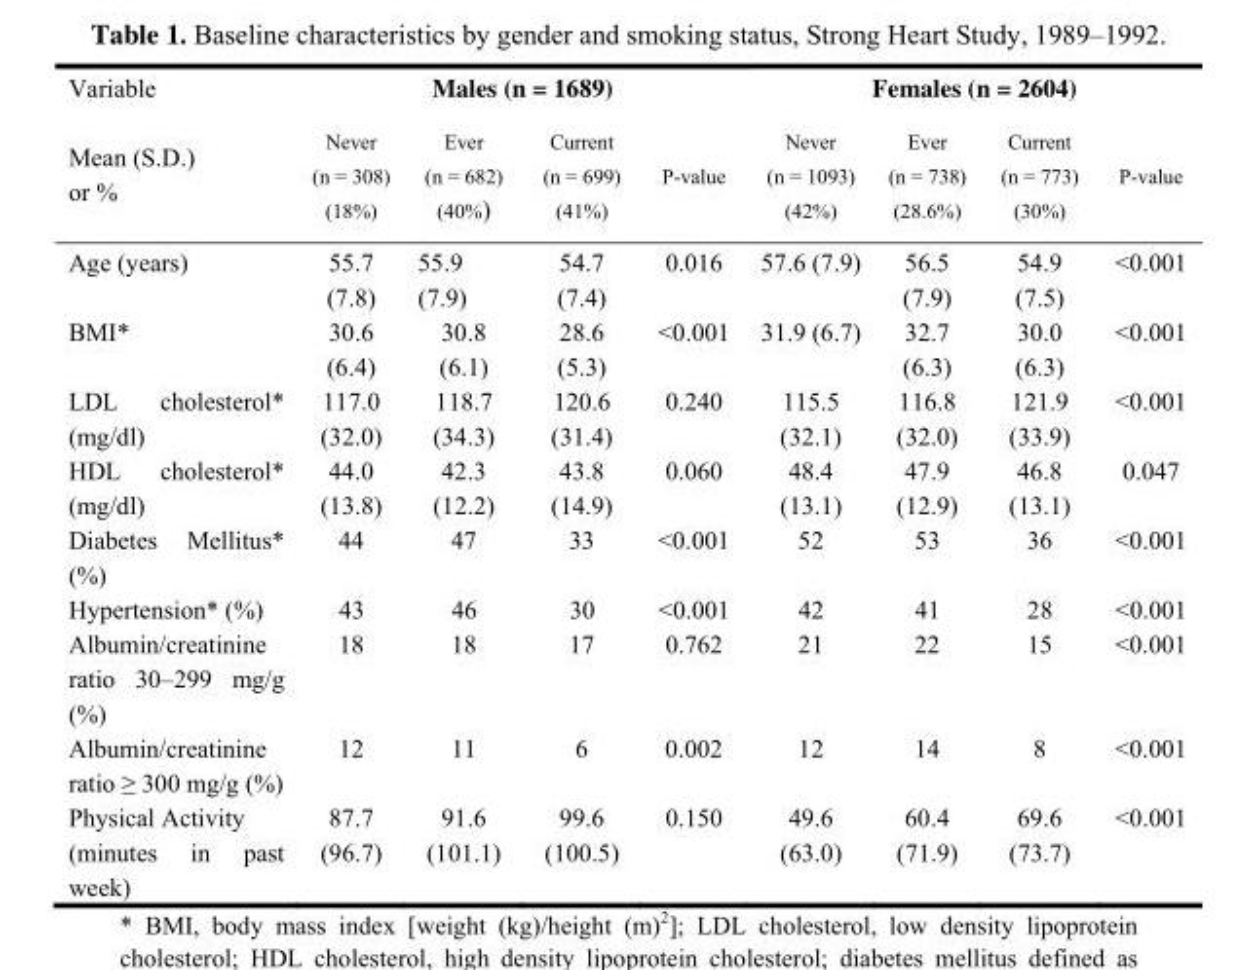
<table><thead><tr><td rowspan="2">Variable Mean (S.D.) or %</td><td colspan="4">Males (n = 1689)</td><td colspan="4">Females (n = 2604)</td></tr><tr><td>Never (n = 308) (18%)</td><td>Ever (n = 682) (40%)</td><td>Current (n = 699) (41%)</td><td>P-value</td><td>Never (n = 1093) (42%)</td><td>Ever (n = 738) (28.6%)</td><td>Current (n = 773) (30%)</td><td>P-value</td></tr></thead><tbody><tr><td>Age (years)</td><td>55.7 (7.8)</td><td>55.9 (7.9)</td><td>54.7 (7.4)</td><td>0.016</td><td>57.6 (7.9)</td><td>56.5 (7.9)</td><td>54.9 (7.5)</td><td>&lt;0.001</td></tr><tr><td>BMI*</td><td>30.6 (6.4)</td><td>30.8 (6.1)</td><td>28.6 (5.3)</td><td>&lt;0.001</td><td>31.9 (6.7)</td><td>32.7 (6.3)</td><td>30.0 (6.3)</td><td>&lt;0.001</td></tr><tr><td>LDL cholesterol* (mg/dl)</td><td>117.0 (32.0)</td><td>118.7 (34.3)</td><td>120.6 (31.4)</td><td>0.240</td><td>115.5 (32.1)</td><td>116.8 (32.0)</td><td>121.9 (33.9)</td><td>&lt;0.001</td></tr><tr><td>HDL cholesterol* (mg/dl)</td><td>44.0 (13.8)</td><td>42.3 (12.2)</td><td>43.8 (14.9)</td><td>0.060</td><td>48.4 (13.1)</td><td>47.9 (12.9)</td><td>46.8 (13.1)</td><td>0.047</td></tr><tr><td>Diabetes Mellitus* (%)</td><td>44</td><td>47</td><td>33</td><td>&lt;0.001</td><td>52</td><td>53</td><td>36</td><td>&lt;0.001</td></tr><tr><td>Hypertension* (%)</td><td>43</td><td>46</td><td>30</td><td>&lt;0.001</td><td>42</td><td>41</td><td>28</td><td>&lt;0.001</td></tr><tr><td>Albumin/creatinine ratio 30–299 mg/g (%)</td><td>18</td><td>18</td><td>17</td><td>0.762</td><td>21</td><td>22</td><td>15</td><td>&lt;0.001</td></tr><tr><td>Albumin/creatinine ratio ≥ 300 mg/g (%)</td><td>12</td><td>11</td><td>6</td><td>0.002</td><td>12</td><td>14</td><td>8</td><td>&lt;0.001</td></tr><tr><td>Physical Activity (minutes in past week)</td><td>87.7 (96.7)</td><td>91.6 (101.1)</td><td>99.6 (100.5)</td><td>0.150</td><td>49.6 (63.0)</td><td>60.4 (71.9)</td><td>69.6 (73.7)</td><td>&lt;0.001</td></tr></tbody></table>